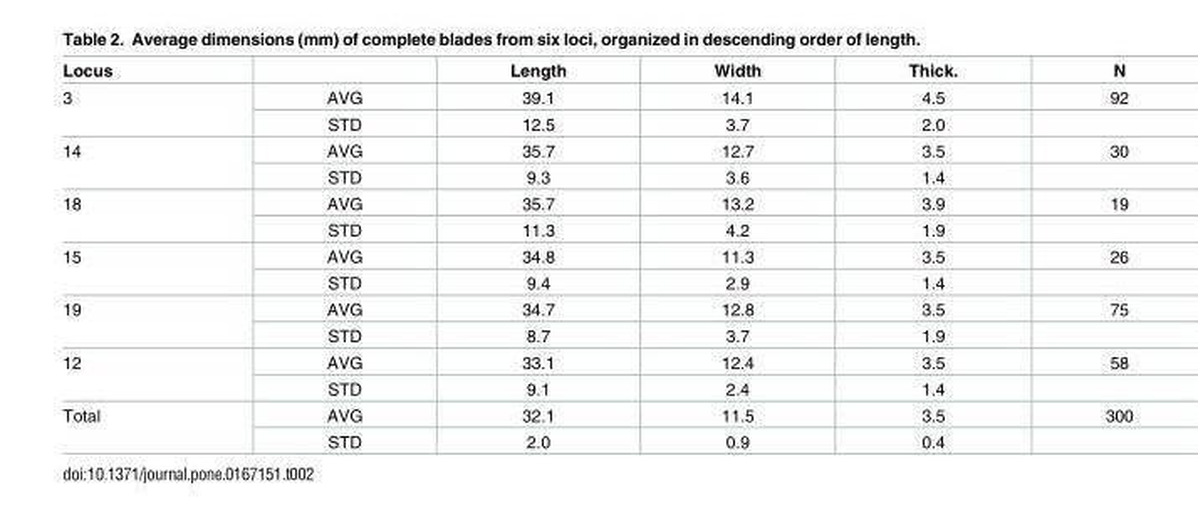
<table><thead><tr><td>Locus</td><td></td><td>Length</td><td>Width</td><td>Thick.</td><td>N</td></tr></thead><tbody><tr><td rowspan="2">3</td><td>AVG</td><td>39.1</td><td>14.1</td><td>4.5</td><td>92</td></tr><tr><td>STD</td><td>12.5</td><td>3.7</td><td>2.0</td><td></td></tr><tr><td rowspan="2">14</td><td>AVG</td><td>35.7</td><td>12.7</td><td>3.5</td><td>30</td></tr><tr><td>STD</td><td>9.3</td><td>3.6</td><td>1.4</td><td></td></tr><tr><td rowspan="2">18</td><td>AVG</td><td>35.7</td><td>13.2</td><td>3.9</td><td>19</td></tr><tr><td>STD</td><td>11.3</td><td>4.2</td><td>1.9</td><td></td></tr><tr><td rowspan="2">15</td><td>AVG</td><td>34.8</td><td>11.3</td><td>3.5</td><td>26</td></tr><tr><td>STD</td><td>9.4</td><td>2.9</td><td>1.4</td><td></td></tr><tr><td rowspan="2">19</td><td>AVG</td><td>34.7</td><td>12.8</td><td>3.5</td><td>75</td></tr><tr><td>STD</td><td>8.7</td><td>3.7</td><td>1.9</td><td></td></tr><tr><td rowspan="2">12</td><td>AVG</td><td>33.1</td><td>12.4</td><td>3.5</td><td>58</td></tr><tr><td>STD</td><td>9.1</td><td>2.4</td><td>1.4</td><td></td></tr><tr><td rowspan="2">Total</td><td>AVG</td><td>32.1</td><td>11.5</td><td>3.5</td><td>300</td></tr><tr><td>STD</td><td>2.0</td><td>0.9</td><td>0.4</td><td></td></tr></tbody></table>